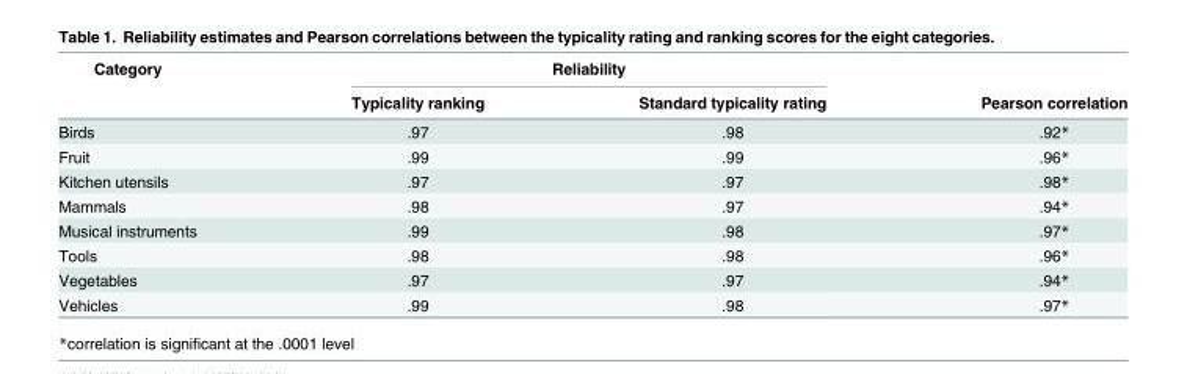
<table><thead><tr><td rowspan="2">Category</td><td colspan="2">Reliability</td><td rowspan="2">Pearson correlation</td></tr><tr><td>Typicality ranking</td><td>Standard typicality rating</td></tr></thead><tbody><tr><td>Birds</td><td>.97</td><td>.98</td><td>.92*</td></tr><tr><td>Fruit</td><td>.99</td><td>.99</td><td>.96*</td></tr><tr><td>Kitchen utensils</td><td>.97</td><td>.97</td><td>.98*</td></tr><tr><td>Mammals</td><td>.98</td><td>.97</td><td>.94*</td></tr><tr><td>Musical instruments</td><td>.99</td><td>.98</td><td>.97*</td></tr><tr><td>Tools</td><td>.98</td><td>.98</td><td>.96*</td></tr><tr><td>Vegetables</td><td>.97</td><td>.97</td><td>.94*</td></tr><tr><td>Vehicles</td><td>.99</td><td>.98</td><td>.97*</td></tr></tbody></table>